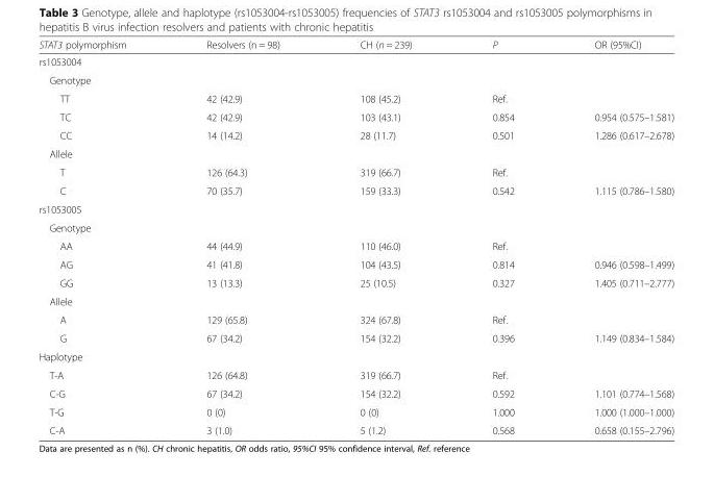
<table><thead><tr><td>STAT3 polymorphism</td><td>Resolvers (n = 98)</td><td>CH (n = 239)</td><td>P</td><td>OR (95%CI)</td></tr></thead><tbody><tr><td colspan="5">rs1053004</td></tr><tr><td colspan="5">Genotype</td></tr><tr><td>TT</td><td>42 (42.9)</td><td>108 (45.2)</td><td>Ref.</td><td></td></tr><tr><td>TC</td><td>42 (42.9)</td><td>103 (43.1)</td><td>0.854</td><td>0.954 (0.575–1.581)</td></tr><tr><td>CC</td><td>14 (14.2)</td><td>28 (11.7)</td><td>0.501</td><td>1.286 (0.617–2.678)</td></tr><tr><td colspan="5">Allele</td></tr><tr><td>T</td><td>126 (64.3)</td><td>319 (66.7)</td><td>Ref.</td><td></td></tr><tr><td>C</td><td>70 (35.7)</td><td>159 (33.3)</td><td>0.542</td><td>1.115 (0.786–1.580)</td></tr><tr><td colspan="5">rs1053005</td></tr><tr><td colspan="5">Genotype</td></tr><tr><td>AA</td><td>44 (44.9)</td><td>110 (46.0)</td><td>Ref.</td><td></td></tr><tr><td>AG</td><td>41 (41.8)</td><td>104 (43.5)</td><td>0.814</td><td>0.946 (0.598–1.499)</td></tr><tr><td>GG</td><td>13 (13.3)</td><td>25 (10.5)</td><td>0.327</td><td>1.405 (0.711–2.777)</td></tr><tr><td colspan="5">Allele</td></tr><tr><td>A</td><td>129 (65.8)</td><td>324 (67.8)</td><td>Ref.</td><td></td></tr><tr><td>G</td><td>67 (34.2)</td><td>154 (32.2)</td><td>0.396</td><td>1.149 (0.834–1.584)</td></tr><tr><td colspan="5">Haplotype</td></tr><tr><td>T-A</td><td>126 (64.8)</td><td>319 (66.7)</td><td>Ref.</td><td></td></tr><tr><td>C-G</td><td>67 (34.2)</td><td>154 (32.2)</td><td>0.592</td><td>1.101 (0.774–1.568)</td></tr><tr><td>T-G</td><td>0 (0)</td><td>0 (0)</td><td>1.000</td><td>1.000 (1.000–1.000)</td></tr><tr><td>C-A</td><td>3 (1.0)</td><td>5 (1.2)</td><td>0.568</td><td>0.658 (0.155–2.796)</td></tr></tbody></table>